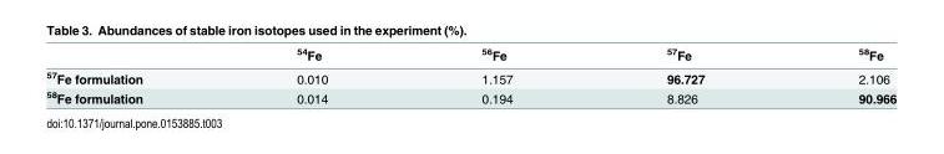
<table><thead><tr><td></td><td><sup>54</sup>Fe</td><td><sup>56</sup>Fe</td><td><sup>57</sup>Fe</td><td><sup>58</sup>Fe</td></tr></thead><tbody><tr><td><sup>57</sup>Fe formulation</td><td>0.010</td><td>1.157</td><td>96.727</td><td>2.106</td></tr><tr><td><sup>58</sup>Fe formulation</td><td>0.014</td><td>0.194</td><td>8.826</td><td>90.966</td></tr></tbody></table>